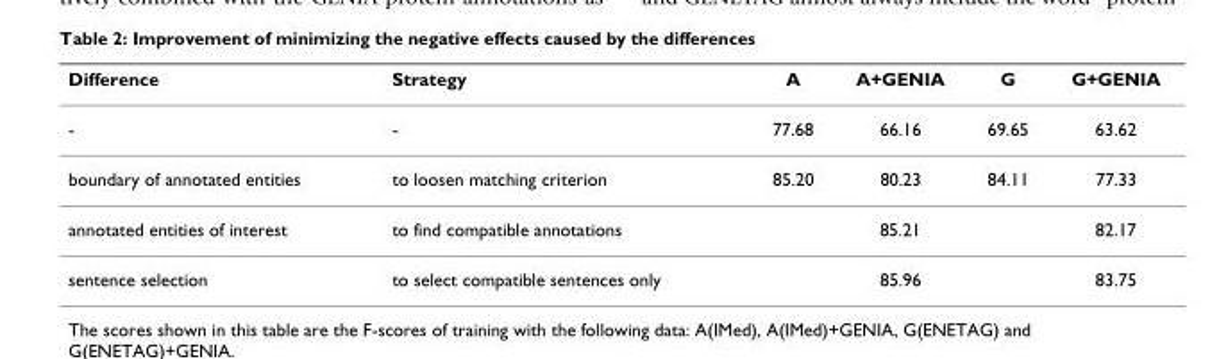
<table><thead><tr><td>Difference</td><td>Strategy</td><td>A</td><td>A+GENIA</td><td>G</td><td>G+GENIA</td></tr></thead><tbody><tr><td>-</td><td>-</td><td>77.68</td><td>66.16</td><td>69.65</td><td>63.62</td></tr><tr><td>boundary of annotated entities</td><td>to loosen matching criterion</td><td>85.20</td><td>80.23</td><td>84.11</td><td>77.33</td></tr><tr><td>annotated entities of interest</td><td>to find compatible annotations</td><td></td><td>85.21</td><td></td><td>82.17</td></tr><tr><td>sentence selection</td><td>to select compatible sentences only</td><td></td><td>85.96</td><td></td><td>83.75</td></tr></tbody></table>